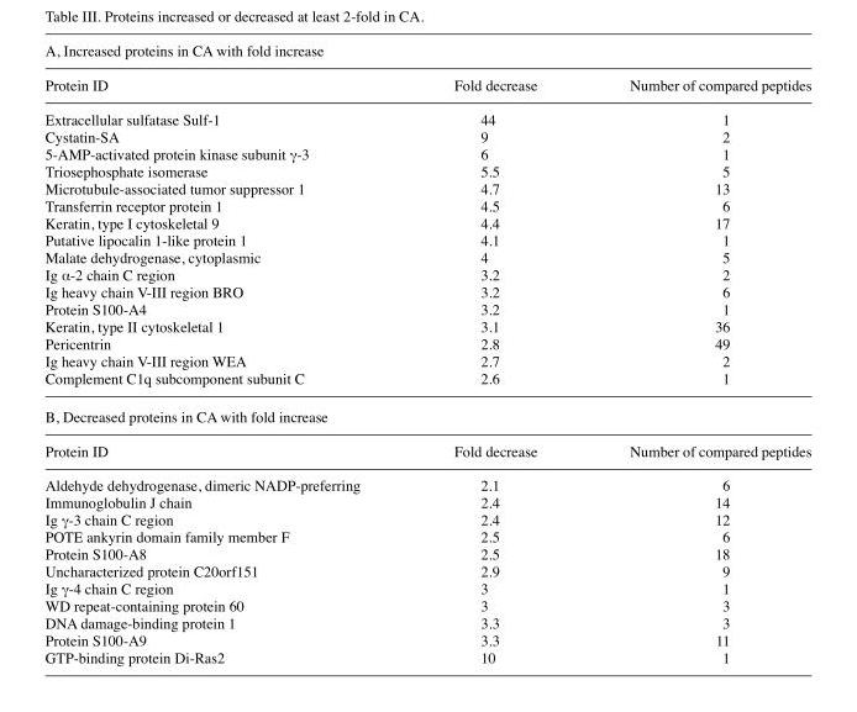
<table><thead><tr><td colspan="3">A, Increased proteins in CA with fold increase</td></tr><tr><td>Protein ID</td><td>Fold decrease</td><td>Number of compared peptides</td></tr></thead><tbody><tr><td>Extracellular sulfatase Sulf-1</td><td>44</td><td>1</td></tr><tr><td>Cystatin-SA</td><td>9</td><td>2</td></tr><tr><td>5-AMP-activated protein kinase subunit γ-3</td><td>6</td><td>1</td></tr><tr><td>Triosephosphate isomerase</td><td>5.5</td><td>5</td></tr><tr><td>Microtubule-associated tumor suppressor 1</td><td>4.7</td><td>13</td></tr><tr><td>Transferrin receptor protein 1</td><td>4.5</td><td>6</td></tr><tr><td>Keratin, type I cytoskeletal 9</td><td>4.4</td><td>17</td></tr><tr><td>Putative lipocalin 1-like protein 1</td><td>4.1</td><td>1</td></tr><tr><td>Malate dehydrogenase, cytoplasmic</td><td>4</td><td>5</td></tr><tr><td>Ig α-2 chain C region</td><td>3.2</td><td>2</td></tr><tr><td>Ig heavy chain V-III region BRO</td><td>3.2</td><td>6</td></tr><tr><td>Protein S100-A4</td><td>3.2</td><td>1</td></tr><tr><td>Keratin, type II cytoskeletal 1</td><td>3.1</td><td>36</td></tr><tr><td>Pericentrin</td><td>2.8</td><td>49</td></tr><tr><td>Ig heavy chain V-III region WEA</td><td>2.7</td><td>2</td></tr><tr><td>Complement C1q subcomponent subunit C</td><td>2.6</td><td>1</td></tr><tr><td colspan="3">B, Decreased proteins in CA with fold increase</td></tr><tr><td>Protein ID</td><td>Fold decrease</td><td>Number of compared peptides</td></tr><tr><td>Aldehyde dehydrogenase, dimeric NADP-preferring</td><td>2.1</td><td>6</td></tr><tr><td>Immunoglobulin J chain</td><td>2.4</td><td>14</td></tr><tr><td>Ig γ-3 chain C region</td><td>2.4</td><td>12</td></tr><tr><td>POTE ankyrin domain family member F</td><td>2.5</td><td>6</td></tr><tr><td>Protein S100-A8</td><td>2.5</td><td>18</td></tr><tr><td>Uncharacterized protein C20orf151</td><td>2.9</td><td>9</td></tr><tr><td>Ig γ-4 chain C region</td><td>3</td><td>1</td></tr><tr><td>WD repeat-containing protein 60</td><td>3</td><td>3</td></tr><tr><td>DNA damage-binding protein 1</td><td>3.3</td><td>3</td></tr><tr><td>Protein S100-A9</td><td>3.3</td><td>11</td></tr><tr><td>GTP-binding protein Di-Ras2</td><td>10</td><td>1</td></tr></tbody></table>